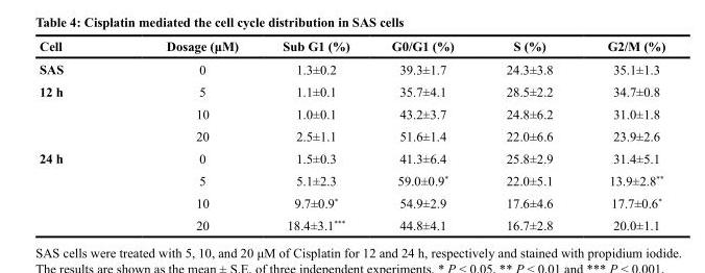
<table><thead><tr><td>Cell</td><td>Dosage (μM)</td><td>Sub G1 (%)</td><td>G0/G1 (%)</td><td>S (%)</td><td>G2/M (%)</td></tr></thead><tbody><tr><td>SAS</td><td>0</td><td>1.3±0.2</td><td>39.3±1.7</td><td>24.3±3.8</td><td>35.1±1.3</td></tr><tr><td rowspan="3">12 h</td><td>5</td><td>1.1±0.1</td><td>35.7±4.1</td><td>28.5±2.2</td><td>34.7±0.8</td></tr><tr><td>10</td><td>1.0±0.1</td><td>43.2±3.7</td><td>24.8±6.2</td><td>31.0±1.8</td></tr><tr><td>20</td><td>2.5±1.1</td><td>51.6±1.4</td><td>22.0±6.6</td><td>23.9±2.6</td></tr><tr><td rowspan="4">24 h</td><td>0</td><td>1.5±0.3</td><td>41.3±6.4</td><td>25.8±2.9</td><td>31.4±5.1</td></tr><tr><td>5</td><td>5.1±2.3</td><td>59.0±0.9*</td><td>22.0±5.1</td><td>13.9±2.8**</td></tr><tr><td>10</td><td>9.7±0.9*</td><td>54.9±2.9</td><td>17.6±4.6</td><td>17.7±0.6*</td></tr><tr><td>20</td><td>18.4±3.1***</td><td>44.8±4.1</td><td>16.7±2.8</td><td>20.0±1.1</td></tr></tbody></table>